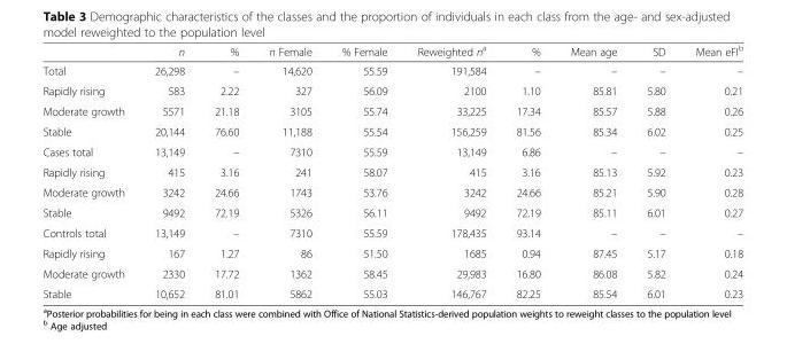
<table><thead><tr><td></td><td>n</td><td>%</td><td>n Female</td><td>% Female</td><td>Reweighted n<sup>a</sup></td><td>%</td><td>Mean age</td><td>SD</td><td>Mean eFI<sup>b</sup></td></tr></thead><tbody><tr><td>Total</td><td>26,298</td><td>–</td><td>14,620</td><td>55.59</td><td>191,584</td><td>–</td><td>–</td><td>–</td><td>–</td></tr><tr><td>Rapidly rising</td><td>583</td><td>2.22</td><td>327</td><td>56.09</td><td>2100</td><td>1.10</td><td>85.81</td><td>5.80</td><td>0.21</td></tr><tr><td>Moderate growth</td><td>5571</td><td>21.18</td><td>3105</td><td>55.74</td><td>33,225</td><td>17.34</td><td>85.57</td><td>5.88</td><td>0.26</td></tr><tr><td>Stable</td><td>20,144</td><td>76.60</td><td>11,188</td><td>55.54</td><td>156,259</td><td>81.56</td><td>85.34</td><td>6.02</td><td>0.25</td></tr><tr><td>Cases total</td><td>13,149</td><td>–</td><td>7310</td><td>55.59</td><td>13,149</td><td>6.86</td><td>–</td><td>–</td><td>–</td></tr><tr><td>Rapidly rising</td><td>415</td><td>3.16</td><td>241</td><td>58.07</td><td>415</td><td>3.16</td><td>85.13</td><td>5.92</td><td>0.23</td></tr><tr><td>Moderate growth</td><td>3242</td><td>24.66</td><td>1743</td><td>53.76</td><td>3242</td><td>24.66</td><td>85.21</td><td>5.90</td><td>0.28</td></tr><tr><td>Stable</td><td>9492</td><td>72.19</td><td>5326</td><td>56.11</td><td>9492</td><td>72.19</td><td>85.11</td><td>6.01</td><td>0.27</td></tr><tr><td>Controls total</td><td>13,149</td><td>–</td><td>7310</td><td>55.59</td><td>178,435</td><td>93.14</td><td>–</td><td>–</td><td>–</td></tr><tr><td>Rapidly rising</td><td>167</td><td>1.27</td><td>86</td><td>51.50</td><td>1685</td><td>0.94</td><td>87.45</td><td>5.17</td><td>0.18</td></tr><tr><td>Moderate growth</td><td>2330</td><td>17.72</td><td>1362</td><td>58.45</td><td>29,983</td><td>16.80</td><td>86.08</td><td>5.82</td><td>0.24</td></tr><tr><td>Stable</td><td>10,652</td><td>81.01</td><td>5862</td><td>55.03</td><td>146,767</td><td>82.25</td><td>85.54</td><td>6.01</td><td>0.23</td></tr></tbody></table>